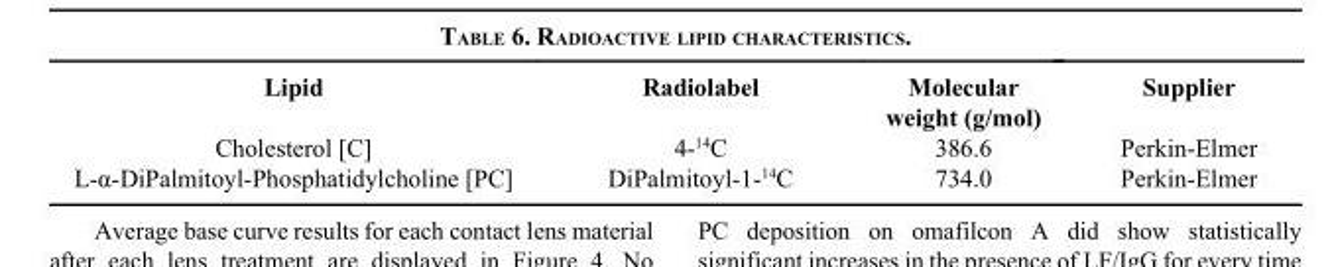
<table><thead><tr><td>Lipid</td><td>Radiolabel</td><td>Molecular weight (g/mol)</td><td>Supplier</td></tr></thead><tbody><tr><td>Cholesterol [C]</td><td>4-<sup>14</sup>C</td><td>386.6</td><td>Perkin-Elmer</td></tr><tr><td>L-α-DiPalmitoyl-Phosphatidylcholine [PC]</td><td>DiPalmitoyl-1-<sup>14</sup>C</td><td>734.0</td><td>Perkin-Elmer</td></tr></tbody></table>